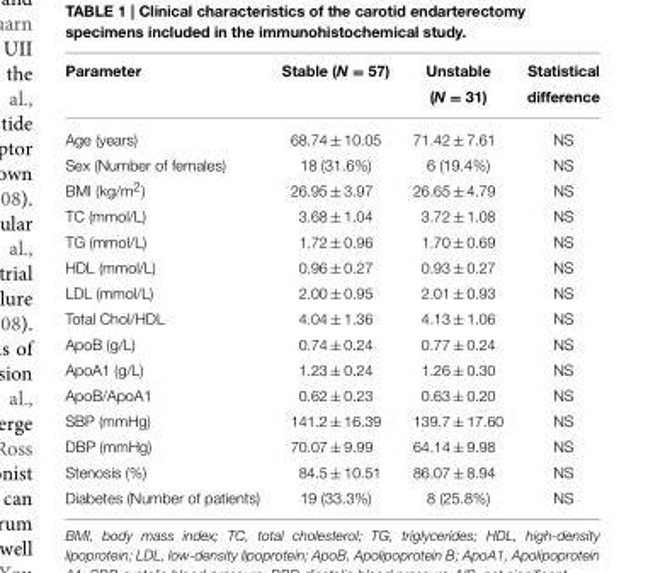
<table><thead><tr><td>Parameter</td><td>Stable (N = 57)</td><td>Unstable (N = 31)</td><td>Statistical difference</td></tr></thead><tbody><tr><td>Age (years)</td><td>68.74 ± 10.05</td><td>71.42 ± 7.61</td><td>NS</td></tr><tr><td>Sex (Number of females)</td><td>18 (31.6%)</td><td>6 (19.4%)</td><td>NS</td></tr><tr><td>BMI (kg/m<sup>2</sup>)</td><td>26.95 ± 3.97</td><td>26.65 ± 4.79</td><td>NS</td></tr><tr><td>TC (mmol/L)</td><td>3.68 ± 1.04</td><td>3.72 ± 1.08</td><td>NS</td></tr><tr><td>TG (mmol/L)</td><td>1.72 ± 0.96</td><td>1.70 ± 0.69</td><td>NS</td></tr><tr><td>HDL (mmol/L)</td><td>0.96 ± 0.27</td><td>0.93 ± 0.27</td><td>NS</td></tr><tr><td>LDL (mmol/L)</td><td>2.00 ± 0.95</td><td>2.01 ± 0.93</td><td>NS</td></tr><tr><td>Total Chol/HDL</td><td>4.04 ± 1.36</td><td>4.13 ± 1.06</td><td>NS</td></tr><tr><td>ApoB (g/L)</td><td>0.74 ± 0.24</td><td>0.77 ± 0.24</td><td>NS</td></tr><tr><td>ApoA1 (g/L)</td><td>1.23 ± 0.24</td><td>1.26 ± 0.30</td><td>NS</td></tr><tr><td>ApoB/ApoA1</td><td>0.62 ± 0.23</td><td>0.63 ± 0.20</td><td>NS</td></tr><tr><td>SBP (mmHg)</td><td>141.2 ± 16.39</td><td>139.7 ± 17.60</td><td>NS</td></tr><tr><td>DBP (mmHg)</td><td>70.07 ± 9.99</td><td>64.14 ± 9.98</td><td>NS</td></tr><tr><td>Stenosis (%)</td><td>84.5 ± 10.51</td><td>86.07 ± 8.94</td><td>NS</td></tr><tr><td>Diabetes (Number of patients)</td><td>19 (33.3%)</td><td>8 (25.8%)</td><td>NS</td></tr></tbody></table>